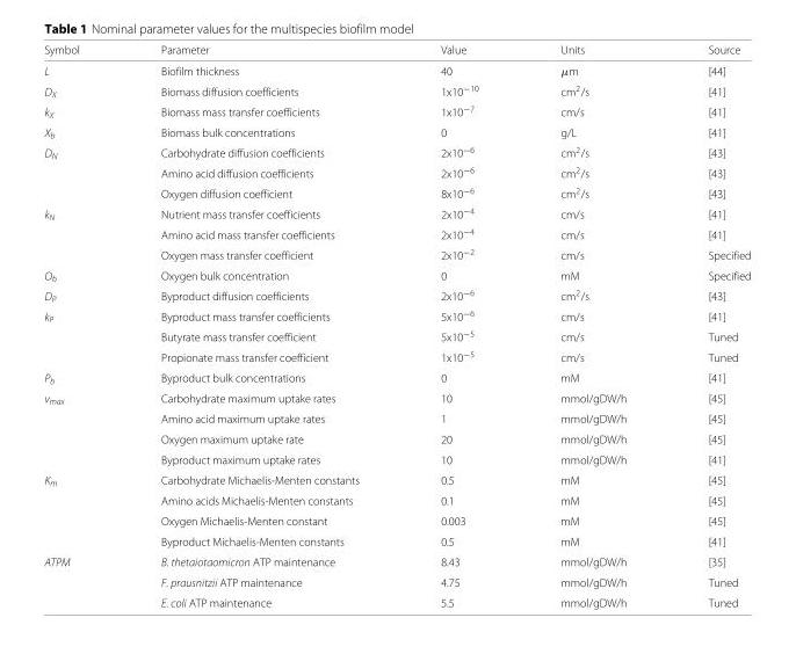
<table><thead><tr><td>Symbol</td><td>Parameter</td><td>Value</td><td>Units</td><td>Source</td></tr></thead><tbody><tr><td>L</td><td>Biofilm thickness</td><td>40</td><td>μm</td><td>[44]</td></tr><tr><td>D<sub>X</sub></td><td>Biomass diffusion coefficients</td><td>1x10<sup>−10</sup></td><td>cm<sup>2</sup>/s</td><td>[41]</td></tr><tr><td>k<sub>X</sub></td><td>Biomass mass transfer coefficients</td><td>1x10<sup>−7</sup></td><td>cm/s</td><td>[41]</td></tr><tr><td>X<sub>b</sub></td><td>Biomass bulk concentrations</td><td>0</td><td>g/L</td><td>[41]</td></tr><tr><td rowspan="3">D<sub>N</sub></td><td>Carbohydrate diffusion coefficients</td><td>2x10<sup>−6</sup></td><td>cm<sup>2</sup>/s</td><td>[43]</td></tr><tr><td>Amino acid diffusion coefficients</td><td>2x10<sup>−6</sup></td><td>cm<sup>2</sup>/s</td><td>[43]</td></tr><tr><td>Oxygen diffusion coefficient</td><td>8x10<sup>−6</sup></td><td>cm<sup>2</sup>/s</td><td>[43]</td></tr><tr><td rowspan="3">k<sub>N</sub></td><td>Nutrient mass transfer coefficients</td><td>2x10<sup>−4</sup></td><td>cm/s</td><td>[41]</td></tr><tr><td>Amino acid mass transfer coefficients</td><td>2x10<sup>−4</sup></td><td>cm/s</td><td>[41]</td></tr><tr><td>Oxygen mass transfer coefficient</td><td>2x10<sup>−2</sup></td><td>cm/s</td><td>Specified</td></tr><tr><td>O<sub>b</sub></td><td>Oxygen bulk concentration</td><td>0</td><td>mM</td><td>Specified</td></tr><tr><td>D<sub>P</sub></td><td>Byproduct diffusion coefficients</td><td>2x10<sup>−6</sup></td><td>cm<sup>2</sup>/s</td><td>[43]</td></tr><tr><td rowspan="3">k<sub>P</sub></td><td>Byproduct mass transfer coefficients</td><td>5x10<sup>−6</sup></td><td>cm/s</td><td>[41]</td></tr><tr><td>Butyrate mass transfer coefficient</td><td>5x10<sup>−5</sup></td><td>cm/s</td><td>Tuned</td></tr><tr><td>Propionate mass transfer coefficient</td><td>1x10<sup>−5</sup></td><td>cm/s</td><td>Tuned</td></tr><tr><td>P<sub>b</sub></td><td>Byproduct bulk concentrations</td><td>0</td><td>mM</td><td>[41]</td></tr><tr><td rowspan="4">v<sub>max</sub></td><td>Carbohydrate maximum uptake rates</td><td>10</td><td>mmol/gDW/h</td><td>[45]</td></tr><tr><td>Amino acid maximum uptake rates</td><td>1</td><td>mmol/gDW/h</td><td>[45]</td></tr><tr><td>Oxygen maximum uptake rate</td><td>20</td><td>mmol/gDW/h</td><td>[45]</td></tr><tr><td>Byproduct maximum uptake rates</td><td>10</td><td>mmol/gDW/h</td><td>[41]</td></tr><tr><td rowspan="4">K<sub>m</sub></td><td>Carbohydrate Michaelis-Menten constants</td><td>0.5</td><td>mM</td><td>[45]</td></tr><tr><td>Amino acids Michaelis-Menten constants</td><td>0.1</td><td>mM</td><td>[45]</td></tr><tr><td>Oxygen Michaelis-Menten constant</td><td>0.003</td><td>mM</td><td>[45]</td></tr><tr><td>Byproduct Michaelis-Menten constants</td><td>0.5</td><td>mM</td><td>[41]</td></tr><tr><td rowspan="3">ATPM</td><td>B. thetaiotaomicron ATP maintenance</td><td>8.43</td><td>mmol/gDW/h</td><td>[35]</td></tr><tr><td>F. prausnitzii ATP maintenance</td><td>4.75</td><td>mmol/gDW/h</td><td>Tuned</td></tr><tr><td>E. coli ATP maintenance</td><td>5.5</td><td>mmol/gDW/h</td><td>Tuned</td></tr></tbody></table>